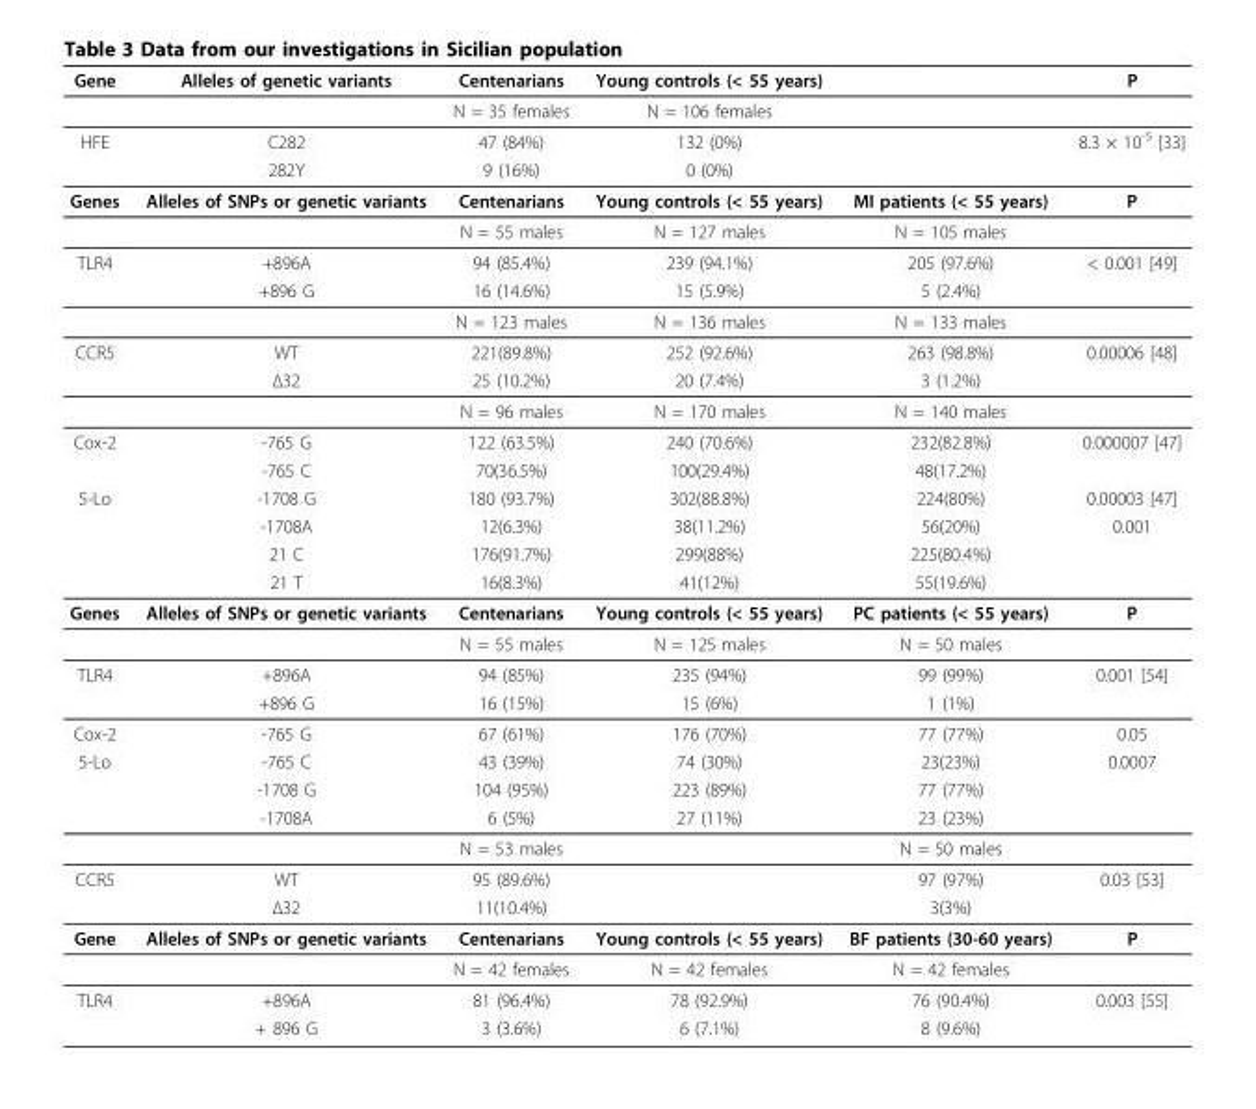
<table><tbody><tr><td rowspan="2">Gene</td><td>Alleles of genetic variants</td><td>Centenarians</td><td>Young controls (&lt; 55 years)</td><td></td><td>P</td></tr><tr><td></td><td>N = 35 females</td><td>N = 106 females</td><td></td><td></td></tr><tr><td rowspan="2">HFE</td><td>C282</td><td>47 (84%)</td><td>132 (0%)</td><td></td><td>8.3 × 10<sup>-5</sup> [33]</td></tr><tr><td>282Y</td><td>9 (16%)</td><td>0 (0%)</td><td></td><td></td></tr><tr><td rowspan="2">Genes</td><td>Alleles of SNPs or genetic variants</td><td>Centenarians</td><td>Young controls (&lt; 55 years)</td><td>MI patients (&lt; 55 years)</td><td>P</td></tr><tr><td></td><td>N = 55 males</td><td>N = 127 males</td><td>N = 105 males</td><td></td></tr><tr><td rowspan="3">TLR4</td><td>+896A</td><td>94 (85.4%)</td><td>239 (94.1%)</td><td>205 (97.6%)</td><td>&lt; 0.001 [49]</td></tr><tr><td>+896 G</td><td>16 (14.6%)</td><td>15 (5.9%)</td><td>5 (2.4%)</td><td></td></tr><tr><td></td><td>N = 123 males</td><td>N = 136 males</td><td>N = 133 males</td><td></td></tr><tr><td rowspan="3">CCR5</td><td>WT</td><td>221(89.8%)</td><td>252 (92.6%)</td><td>263 (98.8%)</td><td>0.00006 [48]</td></tr><tr><td>Δ32</td><td>25 (10.2%)</td><td>20 (7.4%)</td><td>3 (1.2%)</td><td></td></tr><tr><td></td><td>N = 96 males</td><td>N = 170 males</td><td>N = 140 males</td><td></td></tr><tr><td rowspan="2">Cox-2</td><td>-765 G</td><td>122 (63.5%)</td><td>240 (70.6%)</td><td>232(82.8%)</td><td>0.000007 [47]</td></tr><tr><td>-765 C</td><td>70(36.5%)</td><td>100(29.4%)</td><td>48(17.2%)</td><td></td></tr><tr><td rowspan="4">5-Lo</td><td>-1708 G</td><td>180 (93.7%)</td><td>302(88.8%)</td><td>224(80%)</td><td>0.00003 [47]</td></tr><tr><td>-1708A</td><td>12(6.3%)</td><td>38(11.2%)</td><td>56(20%)</td><td>0.001</td></tr><tr><td>21 C</td><td>176(91.7%)</td><td>299(88%)</td><td>225(80.4%)</td><td></td></tr><tr><td>21 T</td><td>16(8.3%)</td><td>41(12%)</td><td>55(19.6%)</td><td></td></tr><tr><td rowspan="2">Genes</td><td>Alleles of SNPs or genetic variants</td><td>Centenarians</td><td>Young controls (&lt; 55 years)</td><td>PC patients (&lt; 55 years)</td><td>P</td></tr><tr><td></td><td>N = 55 males</td><td>N = 125 males</td><td>N = 50 males</td><td></td></tr><tr><td rowspan="2">TLR4</td><td>+896A</td><td>94 (85%)</td><td>235 (94%)</td><td>99 (99%)</td><td>0.001 [54]</td></tr><tr><td>+896 G</td><td>16 (15%)</td><td>15 (6%)</td><td>1 (1%)</td><td></td></tr><tr><td>Cox-2</td><td>-765 G</td><td>67 (61%)</td><td>176 (70%)</td><td>77 (77%)</td><td>0.05</td></tr><tr><td rowspan="4">5-Lo</td><td>-765 C</td><td>43 (39%)</td><td>74 (30%)</td><td>23(23%)</td><td>0.0007</td></tr><tr><td>-1708 G</td><td>104 (95%)</td><td>223 (89%)</td><td>77 (77%)</td><td></td></tr><tr><td>-1708A</td><td>6 (5%)</td><td>27 (11%)</td><td>23 (23%)</td><td></td></tr><tr><td></td><td>N = 53 males</td><td></td><td>N = 50 males</td><td></td></tr><tr><td rowspan="2">CCR5</td><td>WT</td><td>95 (89.6%)</td><td></td><td>97 (97%)</td><td>0.03 [53]</td></tr><tr><td>Δ32</td><td>11(10.4%)</td><td></td><td>3(3%)</td><td></td></tr><tr><td rowspan="2">Gene</td><td>Alleles of SNPs or genetic variants</td><td>Centenarians</td><td>Young controls (&lt; 55 years)</td><td>BF patients (30-60 years)</td><td>P</td></tr><tr><td></td><td>N = 42 females</td><td>N = 42 females</td><td>N = 42 females</td><td></td></tr><tr><td rowspan="2">TLR4</td><td>+896A</td><td>81 (96.4%)</td><td>78 (92.9%)</td><td>76 (90.4%)</td><td>0.003 [55]</td></tr><tr><td>+ 896 G</td><td>3 (3.6%)</td><td>6 (7.1%)</td><td>8 (9.6%)</td><td></td></tr></tbody></table>